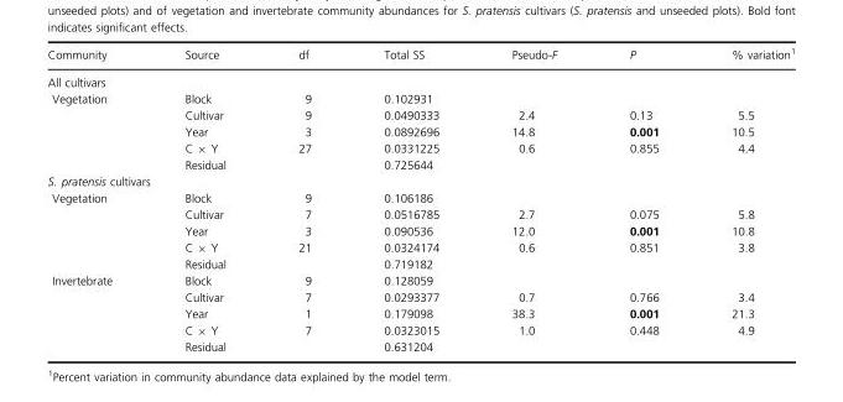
<table><thead><tr><td>Community</td><td>Source</td><td>df</td><td>Total SS</td><td>Pseudo-F</td><td>P</td><td>% variation<sup>1</sup></td></tr></thead><tbody><tr><td colspan="7">All cultivars</td></tr><tr><td rowspan="5">Vegetation</td><td>Block</td><td>9</td><td>0.102931</td><td></td><td></td><td></td></tr><tr><td>Cultivar</td><td>9</td><td>0.0490333</td><td>2.4</td><td>0.13</td><td>5.5</td></tr><tr><td>Year</td><td>3</td><td>0.0892696</td><td>14.8</td><td>0.001</td><td>10.5</td></tr><tr><td>C × Y</td><td>27</td><td>0.0331225</td><td>0.6</td><td>0.855</td><td>4.4</td></tr><tr><td>Residual</td><td></td><td>0.725644</td><td></td><td></td><td></td></tr><tr><td colspan="7">S. pratensis cultivars</td></tr><tr><td rowspan="5">Vegetation</td><td>Block</td><td>9</td><td>0.106186</td><td></td><td></td><td></td></tr><tr><td>Cultivar</td><td>7</td><td>0.0516785</td><td>2.7</td><td>0.075</td><td>5.8</td></tr><tr><td>Year</td><td>3</td><td>0.090536</td><td>12.0</td><td>0.001</td><td>10.8</td></tr><tr><td>C × Y</td><td>21</td><td>0.0324174</td><td>0.6</td><td>0.851</td><td>3.8</td></tr><tr><td>Residual</td><td></td><td>0.719182</td><td></td><td></td><td></td></tr><tr><td rowspan="5">Invertebrate</td><td>Block</td><td>9</td><td>0.128059</td><td></td><td></td><td></td></tr><tr><td>Cultivar</td><td>7</td><td>0.0293377</td><td>0.7</td><td>0.766</td><td>3.4</td></tr><tr><td>Year</td><td>1</td><td>0.179098</td><td>38.3</td><td>0.001</td><td>21.3</td></tr><tr><td>C × Y</td><td>7</td><td>0.0323015</td><td>1.0</td><td>0.448</td><td>4.9</td></tr><tr><td>Residual</td><td></td><td>0.631204</td><td></td><td></td><td></td></tr></tbody></table>